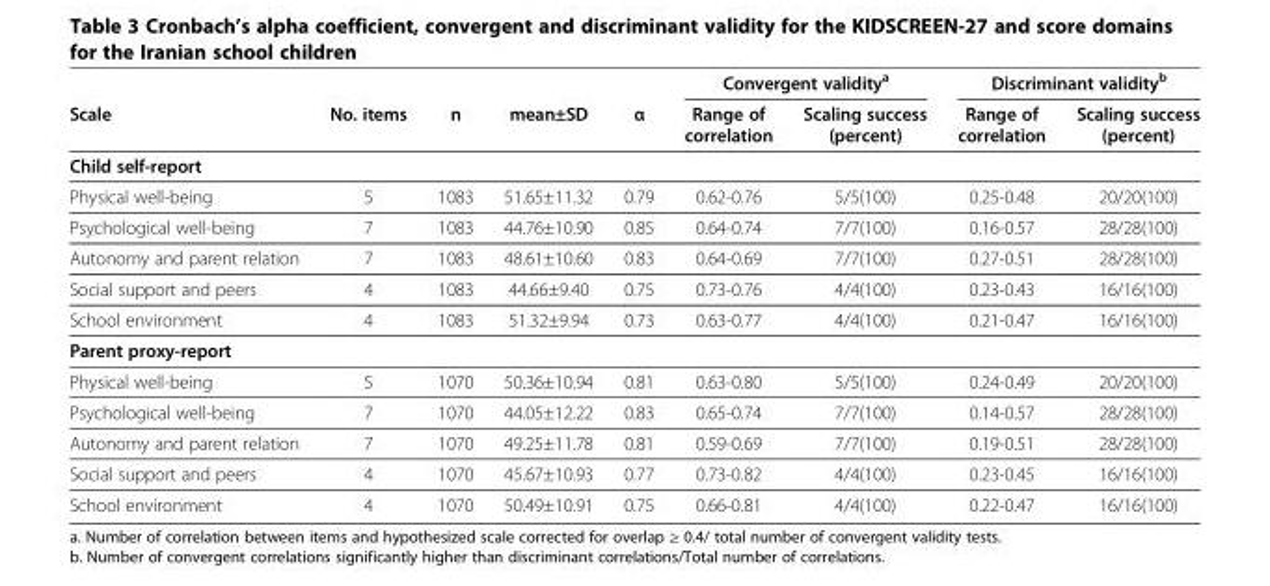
<table><thead><tr><td rowspan="2">Scale</td><td rowspan="2">No. items</td><td rowspan="2">n</td><td rowspan="2">mean±SD</td><td rowspan="2">α</td><td colspan="2">Convergent validity<sup>a</sup></td><td colspan="2">Discriminant validity<sup>b</sup></td></tr><tr><td>Range of correlation</td><td>Scaling success (percent)</td><td>Range of correlation</td><td>Scaling success (percent)</td></tr></thead><tbody><tr><td colspan="9">Child self-report</td></tr><tr><td>Physical well-being</td><td>5</td><td>1083</td><td>51.65±11.32</td><td>0.79</td><td>0.62-0.76</td><td>5/5(100)</td><td>0.25-0.48</td><td>20/20(100)</td></tr><tr><td>Psychological well-being</td><td>7</td><td>1083</td><td>44.76±10.90</td><td>0.85</td><td>0.64-0.74</td><td>7/7(100)</td><td>0.16-0.57</td><td>28/28(100)</td></tr><tr><td>Autonomy and parent relation</td><td>7</td><td>1083</td><td>48.61±10.60</td><td>0.83</td><td>0.64-0.69</td><td>7/7(100)</td><td>0.27-0.51</td><td>28/28(100)</td></tr><tr><td>Social support and peers</td><td>4</td><td>1083</td><td>44.66±9.40</td><td>0.75</td><td>0.73-0.76</td><td>4/4(100)</td><td>0.23-0.43</td><td>16/16(100)</td></tr><tr><td>School environment</td><td>4</td><td>1083</td><td>51.32±9.94</td><td>0.73</td><td>0.63-0.77</td><td>4/4(100)</td><td>0.21-0.47</td><td>16/16(100)</td></tr><tr><td colspan="9">Parent proxy-report</td></tr><tr><td>Physical well-being</td><td>5</td><td>1070</td><td>50.36±10.94</td><td>0.81</td><td>0.63-0.80</td><td>5/5(100)</td><td>0.24-0.49</td><td>20/20(100)</td></tr><tr><td>Psychological well-being</td><td>7</td><td>1070</td><td>44.05±12.22</td><td>0.83</td><td>0.65-0.74</td><td>7/7(100)</td><td>0.14-0.57</td><td>28/28(100)</td></tr><tr><td>Autonomy and parent relation</td><td>7</td><td>1070</td><td>49.25±11.78</td><td>0.81</td><td>0.59-0.69</td><td>7/7(100)</td><td>0.19-0.51</td><td>28/28(100)</td></tr><tr><td>Social support and peers</td><td>4</td><td>1070</td><td>45.67±10.93</td><td>0.77</td><td>0.73-0.82</td><td>4/4(100)</td><td>0.23-0.45</td><td>16/16(100)</td></tr><tr><td>School environment</td><td>4</td><td>1070</td><td>50.49±10.91</td><td>0.75</td><td>0.66-0.81</td><td>4/4(100)</td><td>0.22-0.47</td><td>16/16(100)</td></tr></tbody></table>